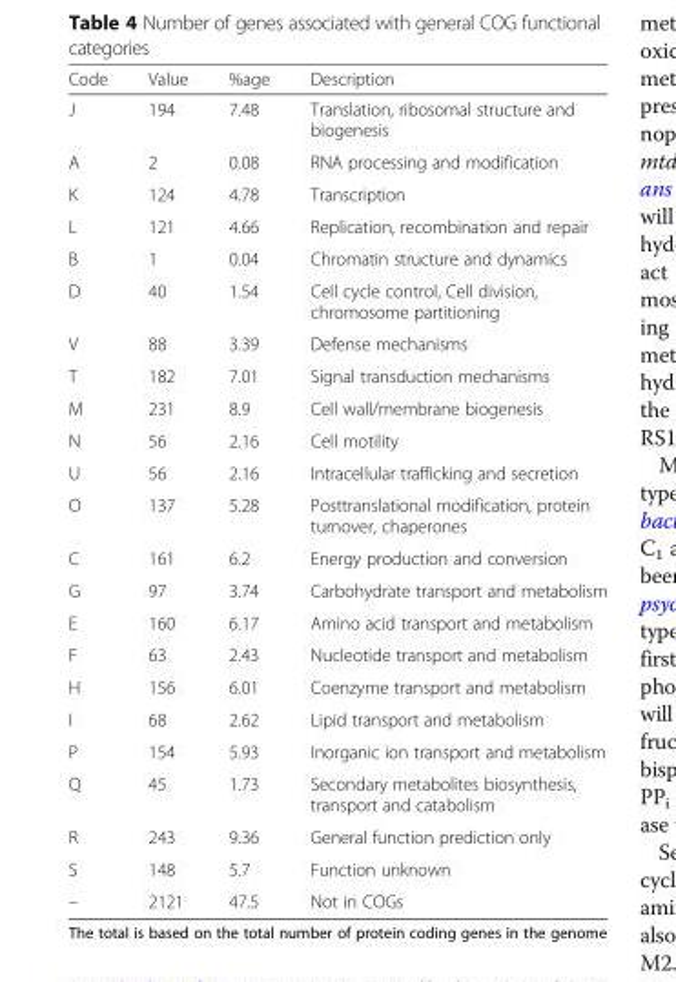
<table><thead><tr><td>Code</td><td>Value</td><td>%age</td><td>Description</td></tr></thead><tbody><tr><td>J</td><td>194</td><td>7.48</td><td>Translation, ribosomal structure and biogenesis</td></tr><tr><td>A</td><td>2</td><td>0.08</td><td>RNA processing and modification</td></tr><tr><td>K</td><td>124</td><td>4.78</td><td>Transcription</td></tr><tr><td>L</td><td>121</td><td>4.66</td><td>Replication, recombination and repair</td></tr><tr><td>B</td><td>1</td><td>0.04</td><td>Chromatin structure and dynamics</td></tr><tr><td>D</td><td>40</td><td>1.54</td><td>Cell cycle control, Cell division, chromosome partitioning</td></tr><tr><td>V</td><td>88</td><td>3.39</td><td>Defense mechanisms</td></tr><tr><td>T</td><td>182</td><td>7.01</td><td>Signal transduction mechanisms</td></tr><tr><td>M</td><td>231</td><td>8.9</td><td>Cell wall/membrane biogenesis</td></tr><tr><td>N</td><td>56</td><td>2.16</td><td>Cell motility</td></tr><tr><td>U</td><td>56</td><td>2.16</td><td>Intracellular trafficking and secretion</td></tr><tr><td>O</td><td>137</td><td>5.28</td><td>Posttranslational modification, protein turnover, chaperones</td></tr><tr><td>C</td><td>161</td><td>6.2</td><td>Energy production and conversion</td></tr><tr><td>G</td><td>97</td><td>3.74</td><td>Carbohydrate transport and metabolism</td></tr><tr><td>E</td><td>160</td><td>6.17</td><td>Amino acid transport and metabolism</td></tr><tr><td>F</td><td>63</td><td>2.43</td><td>Nucleotide transport and metabolism</td></tr><tr><td>H</td><td>156</td><td>6.01</td><td>Coenzyme transport and metabolism</td></tr><tr><td>I</td><td>68</td><td>2.62</td><td>Lipid transport and metabolism</td></tr><tr><td>P</td><td>154</td><td>5.93</td><td>Inorganic ion transport and metabolism</td></tr><tr><td>Q</td><td>45</td><td>1.73</td><td>Secondary metabolites biosynthesis, transport and catabolism</td></tr><tr><td>R</td><td>243</td><td>9.36</td><td>General function prediction only</td></tr><tr><td>S</td><td>148</td><td>5.7</td><td>Function unknown</td></tr><tr><td>–</td><td>2121</td><td>47.5</td><td>Not in COGs</td></tr></tbody></table>